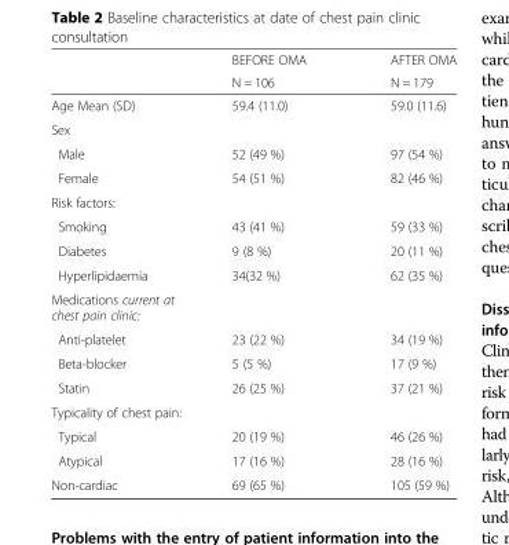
<table><thead><tr><td rowspan="2"></td><td rowspan="2">BEFORE OMA N = 106</td><td rowspan="2">AFTER OMA N = 179</td></tr><tr></tr></thead><tbody><tr><td>Age Mean (SD)</td><td>59.4 (11.0)</td><td>59.0 (11.6)</td></tr><tr><td colspan="3">Sex</td></tr><tr><td>Male</td><td>52 (49 %)</td><td>97 (54 %)</td></tr><tr><td>Female</td><td>54 (51 %)</td><td>82 (46 %)</td></tr><tr><td colspan="3">Risk factors:</td></tr><tr><td>Smoking</td><td>43 (41 %)</td><td>59 (33 %)</td></tr><tr><td>Diabetes</td><td>9 (8 %)</td><td>20 (11 %)</td></tr><tr><td>Hyperlipidaemia</td><td>34(32 %)</td><td>62 (35 %)</td></tr><tr><td colspan="3">Medications current at chest pain clinic:</td></tr><tr><td>Anti-platelet</td><td>23 (22 %)</td><td>34 (19 %)</td></tr><tr><td>Beta-blocker</td><td>5 (5 %)</td><td>17 (9 %)</td></tr><tr><td>Statin</td><td>26 (25 %)</td><td>37 (21 %)</td></tr><tr><td colspan="3">Typicality of chest pain:</td></tr><tr><td>Typical</td><td>20 (19 %)</td><td>46 (26 %)</td></tr><tr><td>Atypical</td><td>17 (16 %)</td><td>28 (16 %)</td></tr><tr><td>Non-cardiac</td><td>69 (65 %)</td><td>105 (59 %)</td></tr></tbody></table>